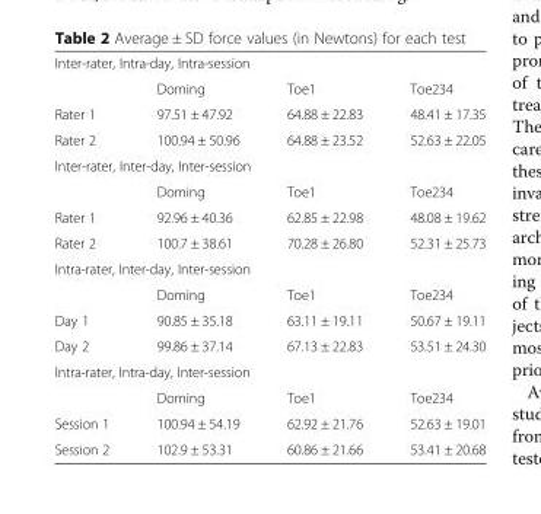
<table><tbody><tr><td colspan="4">Inter-rater, Intra-day, Intra-session</td></tr><tr><td></td><td>Doming</td><td>Toe1</td><td>Toe234</td></tr><tr><td>Rater 1</td><td>97.51 ± 47.92</td><td>64.88 ± 22.83</td><td>48.41 ± 17.35</td></tr><tr><td>Rater 2</td><td>100.94 ± 50.96</td><td>64.88 ± 23.52</td><td>52.63 ± 22.05</td></tr><tr><td colspan="4">Inter-rater, Inter-day, Inter-session</td></tr><tr><td></td><td>Doming</td><td>Toe1</td><td>Toe234</td></tr><tr><td>Rater 1</td><td>92.96 ± 40.36</td><td>62.85 ± 22.98</td><td>48.08 ± 19.62</td></tr><tr><td>Rater 2</td><td>100.7 ± 38.61</td><td>70.28 ± 26.80</td><td>52.31 ± 25.73</td></tr><tr><td colspan="4">Intra-rater, Inter-day, Inter-session</td></tr><tr><td></td><td>Doming</td><td>Toe1</td><td>Toe234</td></tr><tr><td>Day 1</td><td>90.85 ± 35.18</td><td>63.11 ± 19.11</td><td>50.67 ± 19.11</td></tr><tr><td>Day 2</td><td>99.86 ± 37.14</td><td>67.13 ± 22.83</td><td>53.51 ± 24.30</td></tr><tr><td colspan="4">Intra-rater, Intra-day, Inter-session</td></tr><tr><td></td><td>Doming</td><td>Toe1</td><td>Toe234</td></tr><tr><td>Session 1</td><td>100.94 ± 54.19</td><td>62.92 ± 21.76</td><td>52.63 ± 19.01</td></tr><tr><td>Session 2</td><td>102.9 ± 53.31</td><td>60.86 ± 21.66</td><td>53.41 ± 20.68</td></tr></tbody></table>